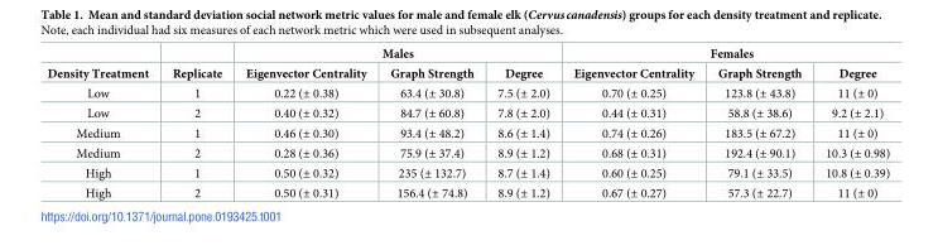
<table><thead><tr><td rowspan="2">Density Treatment</td><td rowspan="2">Replicate</td><td colspan="3">Males</td><td colspan="3">Females</td></tr><tr><td>Eigenvector Centrality</td><td>Graph Strength</td><td>Degree</td><td>Eigenvector Centrality</td><td>Graph Strength</td><td>Degree</td></tr></thead><tbody><tr><td>Low</td><td>1</td><td>0.22 (± 0.38)</td><td>63.4 (± 30.8)</td><td>7.5 (± 2.0)</td><td>0.70 (± 0.25)</td><td>123.8 (± 43.8)</td><td>11 (± 0)</td></tr><tr><td>Low</td><td>2</td><td>0.40 (± 0.32)</td><td>84.7 (± 60.8)</td><td>7.8 (± 2.0)</td><td>0.44 (± 0.31)</td><td>58.8 (± 38.6)</td><td>9.2 (± 2.1)</td></tr><tr><td>Medium</td><td>1</td><td>0.46 (± 0.30)</td><td>93.4 (± 48.2)</td><td>8.6 (± 1.4)</td><td>0.74 (± 0.26)</td><td>183.5 (± 67.2)</td><td>11 (± 0)</td></tr><tr><td>Medium</td><td>2</td><td>0.28 (± 0.36)</td><td>75.9 (± 37.4)</td><td>8.9 (± 1.2)</td><td>0.68 (± 0.31)</td><td>192.4 (± 90.1)</td><td>10.3 (± 0.98)</td></tr><tr><td>High</td><td>1</td><td>0.50 (± 0.32)</td><td>235 (± 132.7)</td><td>8.7 (± 1.4)</td><td>0.60 (± 0.25)</td><td>79.1 (± 33.5)</td><td>10.8 (± 0.39)</td></tr><tr><td>High</td><td>2</td><td>0.50 (± 0.31)</td><td>156.4 (± 74.8)</td><td>8.9 (± 1.2)</td><td>0.67 (± 0.27)</td><td>57.3 (± 22.7)</td><td>11 (± 0)</td></tr></tbody></table>